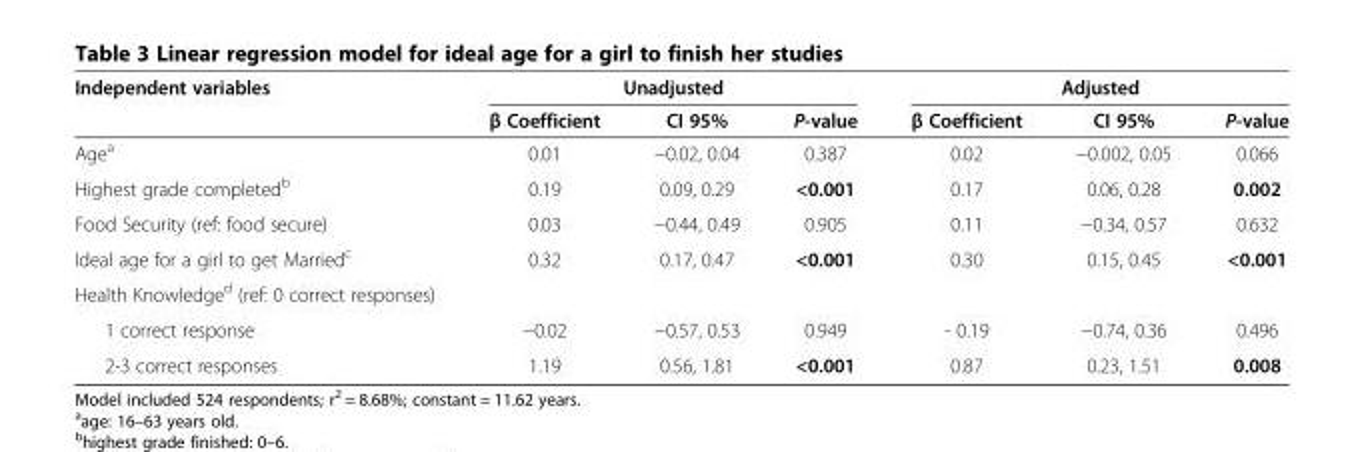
<table><thead><tr><td rowspan="2">Independent variables</td><td colspan="3">Unadjusted</td><td colspan="3">Adjusted</td></tr><tr><td>β Coefficient</td><td>CI 95%</td><td>P-value</td><td>β Coefficient</td><td>CI 95%</td><td>P-value</td></tr></thead><tbody><tr><td>Age<sup>a</sup></td><td>0.01</td><td>−0.02, 0.04</td><td>0.387</td><td>0.02</td><td>−0.002, 0.05</td><td>0.066</td></tr><tr><td>Highest grade completed<sup>b</sup></td><td>0.19</td><td>0.09, 0.29</td><td>&lt;0.001</td><td>0.17</td><td>0.06, 0.28</td><td>0.002</td></tr><tr><td>Food Security (ref: food secure)</td><td>0.03</td><td>−0.44, 0.49</td><td>0.905</td><td>0.11</td><td>−0.34, 0.57</td><td>0.632</td></tr><tr><td>Ideal age for a girl to get Married<sup>c</sup></td><td>0.32</td><td>0.17, 0.47</td><td>&lt;0.001</td><td>0.30</td><td>0.15, 0.45</td><td>&lt;0.001</td></tr><tr><td colspan="7">Health Knowledge<sup>d</sup> (ref: 0 correct responses)</td></tr><tr><td>1 correct response</td><td>−0.02</td><td>−0.57, 0.53</td><td>0.949</td><td>- 0.19</td><td>−0.74, 0.36</td><td>0.496</td></tr><tr><td>2-3 correct responses</td><td>1.19</td><td>0.56, 1.81</td><td>&lt;0.001</td><td>0.87</td><td>0.23, 1.51</td><td>0.008</td></tr></tbody></table>